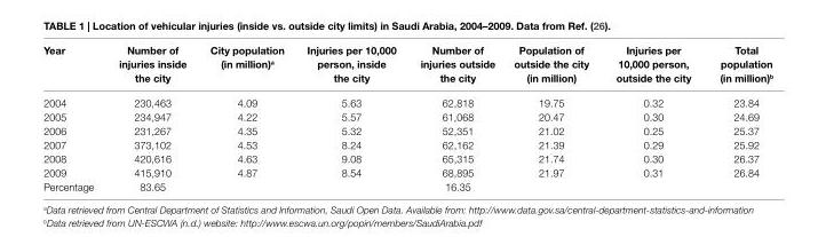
<table><thead><tr><td>Year</td><td>number of injuries inside the city</td><td>city population (in million)<sup>a</sup></td><td>injuries per 10,000 person, inside the city</td><td>number of injuries outside the city</td><td>Population of outside the city (in million)</td><td>injuries per 10,000 person, outside the city</td><td>Total population (in million)<sup>b</sup></td></tr></thead><tbody><tr><td>2004</td><td>230,463</td><td>4.09</td><td>5.63</td><td>62,818</td><td>19.75</td><td>0.32</td><td>23.84</td></tr><tr><td>2005</td><td>234,947</td><td>4.22</td><td>5.57</td><td>61,068</td><td>20.47</td><td>0.30</td><td>24.69</td></tr><tr><td>2006</td><td>231,267</td><td>4.35</td><td>5.32</td><td>52,351</td><td>21.02</td><td>0.25</td><td>25.37</td></tr><tr><td>2007</td><td>373,102</td><td>4.53</td><td>8.24</td><td>62,162</td><td>21.39</td><td>0.29</td><td>25.92</td></tr><tr><td>2008</td><td>420,616</td><td>4.63</td><td>9.08</td><td>65,315</td><td>21.74</td><td>0.30</td><td>26.37</td></tr><tr><td>2009</td><td>415,910</td><td>4.87</td><td>8.54</td><td>68,895</td><td>21.97</td><td>0.31</td><td>26.84</td></tr><tr><td>Percentage</td><td>83.65</td><td></td><td></td><td>16.35</td><td></td><td></td><td></td></tr></tbody></table>